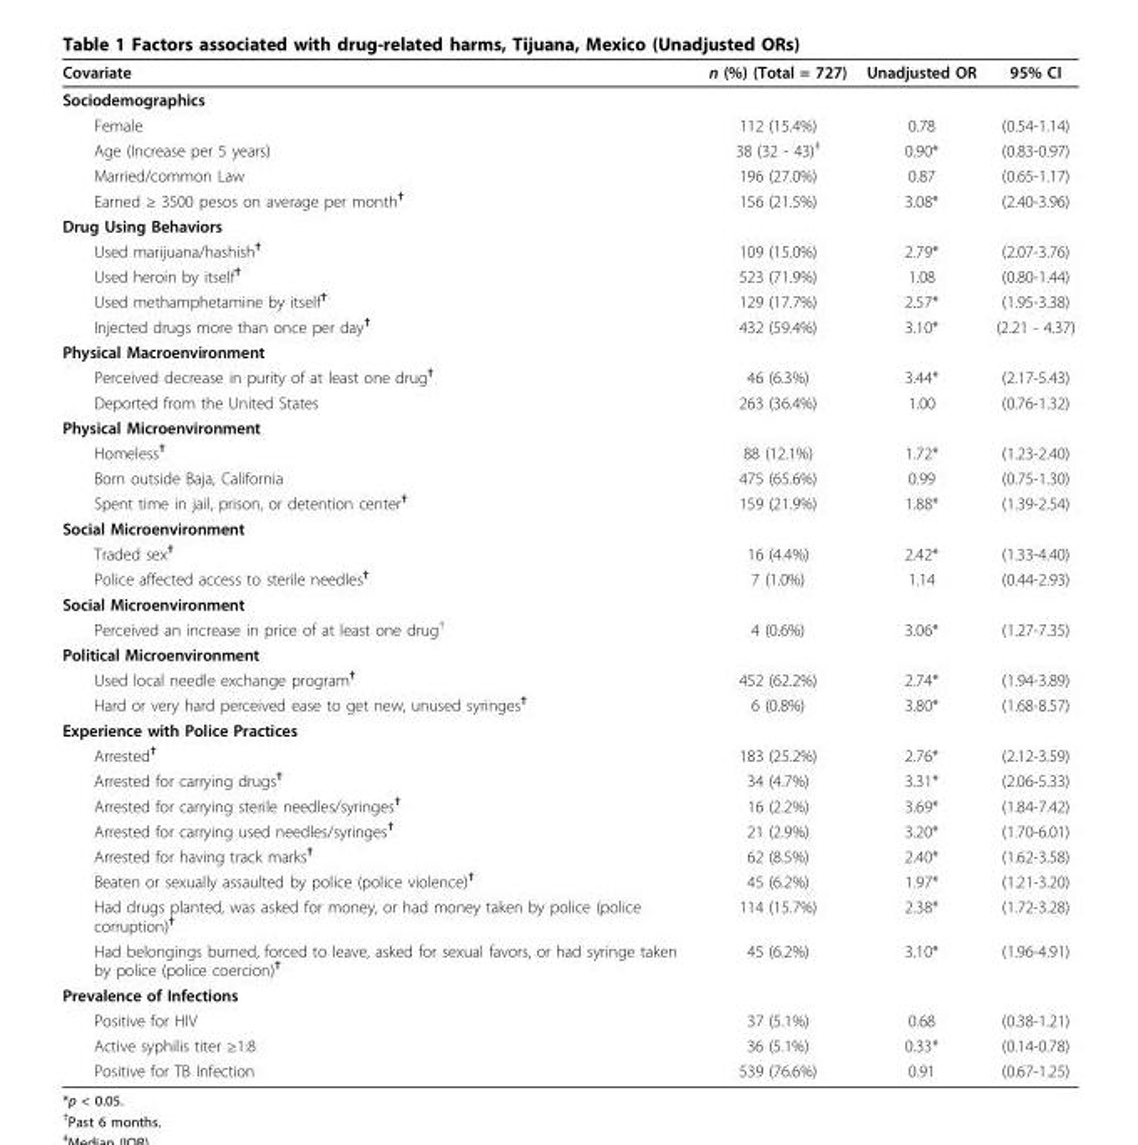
<table><thead><tr><td>Covariate</td><td>n (%) (Total = 727)</td><td>Unadjusted OR</td><td>95% CI</td></tr></thead><tbody><tr><td colspan="4">Sociodemographics</td></tr><tr><td>Female</td><td>112 (15.4%)</td><td>0.78</td><td>(0.54-1.14)</td></tr><tr><td>Age (Increase per 5 years)</td><td>38 (32 - 43)<sup>‡</sup></td><td>0.90*</td><td>(0.83-0.97)</td></tr><tr><td>Married/common Law</td><td>196 (27.0%)</td><td>0.87</td><td>(0.65-1.17)</td></tr><tr><td>Earned ≥ 3500 pesos on average per month<sup>†</sup></td><td>156 (21.5%)</td><td>3.08*</td><td>(2.40-3.96)</td></tr><tr><td colspan="4">Drug Using Behaviors</td></tr><tr><td>Used marijuana/hashish<sup>†</sup></td><td>109 (15.0%)</td><td>2.79*</td><td>(2.07-3.76)</td></tr><tr><td>Used heroin by itself<sup>†</sup></td><td>523 (71.9%)</td><td>1.08</td><td>(0.80-1.44)</td></tr><tr><td>Used methamphetamine by itself<sup>†</sup></td><td>129 (17.7%)</td><td>2.57*</td><td>(1.95-3.38)</td></tr><tr><td>Injected drugs more than once per day<sup>†</sup></td><td>432 (59.4%)</td><td>3.10*</td><td>(2.21 - 4.37)</td></tr><tr><td colspan="4">Physical Macroenvironment</td></tr><tr><td>Perceived decrease in purity of at least one drug<sup>†</sup></td><td>46 (6.3%)</td><td>3.44*</td><td>(2.17-5.43)</td></tr><tr><td>Deported from the United States</td><td>263 (36.4%)</td><td>1.00</td><td>(0.76-1.32)</td></tr><tr><td colspan="4">Physical Microenvironment</td></tr><tr><td>Homeless<sup>†</sup></td><td>88 (12.1%)</td><td>1.72*</td><td>(1.23-2.40)</td></tr><tr><td>Born outside Baja, California</td><td>475 (65.6%)</td><td>0.99</td><td>(0.75-1.30)</td></tr><tr><td>Spent time in jail, prison, or detention center<sup>†</sup></td><td>159 (21.9%)</td><td>1.88*</td><td>(1.39-2.54)</td></tr><tr><td colspan="4">Social Microenvironment</td></tr><tr><td>Traded sex<sup>†</sup></td><td>16 (4.4%)</td><td>2.42*</td><td>(1.33-4.40)</td></tr><tr><td>Police affected access to sterile needles<sup>†</sup></td><td>7 (1.0%)</td><td>1.14</td><td>(0.44-2.93)</td></tr><tr><td colspan="4">Social Microenvironment</td></tr><tr><td>Perceived an increase in price of at least one drug<sup>†</sup></td><td>4 (0.6%)</td><td>3.06*</td><td>(1.27-7.35)</td></tr><tr><td colspan="4">Political Microenvironment</td></tr><tr><td>Used local needle exchange program<sup>†</sup></td><td>452 (62.2%)</td><td>2.74*</td><td>(1.94-3.89)</td></tr><tr><td>Hard or very hard perceived ease to get new, unused syringes<sup>†</sup></td><td>6 (0.8%)</td><td>3.80*</td><td>(1.68-8.57)</td></tr><tr><td colspan="4">Experience with Police Practices</td></tr><tr><td>Arrested<sup>†</sup></td><td>183 (25.2%)</td><td>2.76*</td><td>(2.12-3.59)</td></tr><tr><td>Arrested for carrying drugs<sup>†</sup></td><td>34 (4.7%)</td><td>3.31*</td><td>(2.06-5.33)</td></tr><tr><td>Arrested for carrying sterile needles/syringes<sup>†</sup></td><td>16 (2.2%)</td><td>3.69*</td><td>(1.84-7.42)</td></tr><tr><td>Arrested for carrying used needles/syringes<sup>†</sup></td><td>21 (2.9%)</td><td>3.20*</td><td>(1.70-6.01)</td></tr><tr><td>Arrested for having track marks<sup>†</sup></td><td>62 (8.5%)</td><td>2.40*</td><td>(1.62-3.58)</td></tr><tr><td>Beaten or sexually assaulted by police (police violence)<sup>†</sup></td><td>45 (6.2%)</td><td>1.97*</td><td>(1.21-3.20)</td></tr><tr><td>Had drugs planted, was asked for money, or had money taken by police (police corruption)<sup>†</sup></td><td>114 (15.7%)</td><td>2.38*</td><td>(1.72-3.28)</td></tr><tr><td>Had belongings burned, forced to leave, asked for sexual favors, or had syringe taken by police (police coercion)<sup>†</sup></td><td>45 (6.2%)</td><td>3.10*</td><td>(1.96-4.91)</td></tr><tr><td colspan="4">Prevalence of Infections</td></tr><tr><td>Positive for HIV</td><td>37 (5.1%)</td><td>0.68</td><td>(0.38-1.21)</td></tr><tr><td>Active syphilis titer ≥1:8</td><td>36 (5.1%)</td><td>0.33*</td><td>(0.14-0.78)</td></tr><tr><td>Positive for TB Infection</td><td>539 (76.6%)</td><td>0.91</td><td>(0.67-1.25)</td></tr></tbody></table>